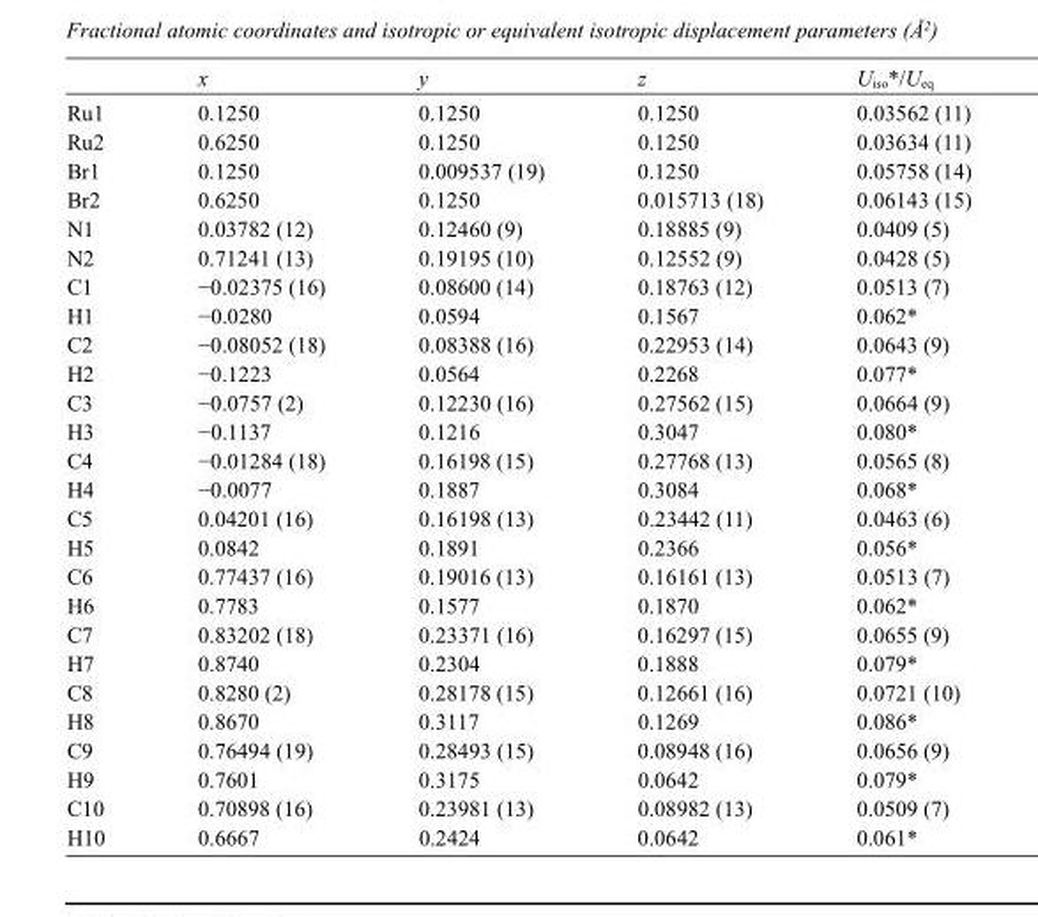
<table><thead><tr><td></td><td>x</td><td>y</td><td>z</td><td>U<sub>iso</sub>*/U<sub>eq</sub></td></tr></thead><tbody><tr><td>Ru1</td><td>0.1250</td><td>0.1250</td><td>0.1250</td><td>0.03562 (11)</td></tr><tr><td>Ru2</td><td>0.6250</td><td>0.1250</td><td>0.1250</td><td>0.03634 (11)</td></tr><tr><td>Br1</td><td>0.1250</td><td>0.009537 (19)</td><td>0.1250</td><td>0.05758 (14)</td></tr><tr><td>Br2</td><td>0.6250</td><td>0.1250</td><td>0.015713 (18)</td><td>0.06143 (15)</td></tr><tr><td>N1</td><td>0.03782 (12)</td><td>0.12460 (9)</td><td>0.18885 (9)</td><td>0.0409 (5)</td></tr><tr><td>N2</td><td>0.71241 (13)</td><td>0.19195 (10)</td><td>0.12552 (9)</td><td>0.0428 (5)</td></tr><tr><td>C1</td><td>−0.02375 (16)</td><td>0.08600 (14)</td><td>0.18763 (12)</td><td>0.0513 (7)</td></tr><tr><td>H1</td><td>−0.0280</td><td>0.0594</td><td>0.1567</td><td>0.062*</td></tr><tr><td>C2</td><td>−0.08052 (18)</td><td>0.08388 (16)</td><td>0.22953 (14)</td><td>0.0643 (9)</td></tr><tr><td>H2</td><td>−0.1223</td><td>0.0564</td><td>0.2268</td><td>0.077*</td></tr><tr><td>C3</td><td>−0.0757 (2)</td><td>0.12230 (16)</td><td>0.27562 (15)</td><td>0.0664 (9)</td></tr><tr><td>H3</td><td>−0.1137</td><td>0.1216</td><td>0.3047</td><td>0.080*</td></tr><tr><td>C4</td><td>−0.01284 (18)</td><td>0.16198 (15)</td><td>0.27768 (13)</td><td>0.0565 (8)</td></tr><tr><td>H4</td><td>−0.0077</td><td>0.1887</td><td>0.3084</td><td>0.068*</td></tr><tr><td>C5</td><td>0.04201 (16)</td><td>0.16198 (13)</td><td>0.23442 (11)</td><td>0.0463 (6)</td></tr><tr><td>H5</td><td>0.0842</td><td>0.1891</td><td>0.2366</td><td>0.056*</td></tr><tr><td>C6</td><td>0.77437 (16)</td><td>0.19016 (13)</td><td>0.16161 (13)</td><td>0.0513 (7)</td></tr><tr><td>H6</td><td>0.7783</td><td>0.1577</td><td>0.1870</td><td>0.062*</td></tr><tr><td>C7</td><td>0.83202 (18)</td><td>0.23371 (16)</td><td>0.16297 (15)</td><td>0.0655 (9)</td></tr><tr><td>H7</td><td>0.8740</td><td>0.2304</td><td>0.1888</td><td>0.079*</td></tr><tr><td>C8</td><td>0.8280 (2)</td><td>0.28178 (15)</td><td>0.12661 (16)</td><td>0.0721 (10)</td></tr><tr><td>H8</td><td>0.8670</td><td>0.3117</td><td>0.1269</td><td>0.086*</td></tr><tr><td>C9</td><td>0.76494 (19)</td><td>0.28493 (15)</td><td>0.08948 (16)</td><td>0.0656 (9)</td></tr><tr><td>H9</td><td>0.7601</td><td>0.3175</td><td>0.0642</td><td>0.079*</td></tr><tr><td>C10</td><td>0.70898 (16)</td><td>0.23981 (13)</td><td>0.08982 (13)</td><td>0.0509 (7)</td></tr><tr><td>H10</td><td>0.6667</td><td>0.2424</td><td>0.0642</td><td>0.061*</td></tr></tbody></table>